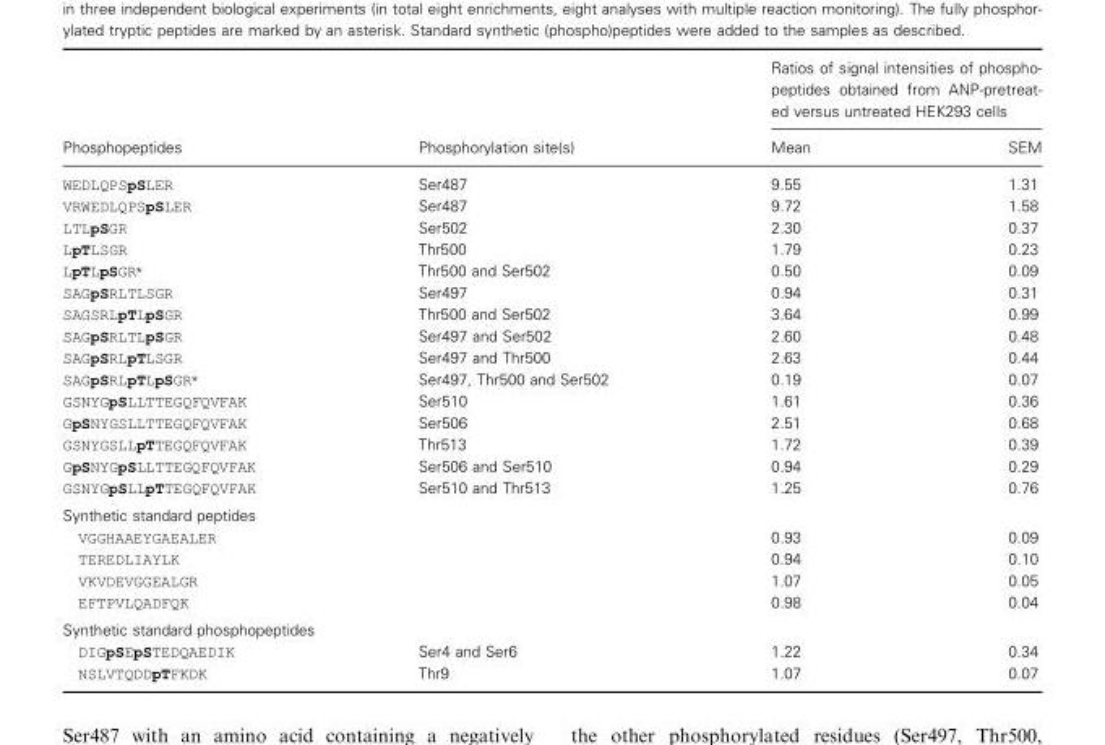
<table><thead><tr><td rowspan="2">Phosphopeptides</td><td rowspan="2">Phosphorylation site(s)</td><td colspan="2">Ratios of signal intensities of phospho- peptides obtained from ANP-pretreat- ed versus untreated HEK293 cells</td></tr><tr><td>Mean</td><td>SEM</td></tr></thead><tbody><tr><td>WEDLQPSpSLER</td><td>Ser487</td><td>9.55</td><td>1.31</td></tr><tr><td>VRWEDLQPSpSLER</td><td>Ser487</td><td>9.72</td><td>1.58</td></tr><tr><td>LTLpSGR</td><td>Ser502</td><td>2.30</td><td>0.37</td></tr><tr><td>LpTLSGR</td><td>Thr500</td><td>1.79</td><td>0.23</td></tr><tr><td>LpTLpSGR*</td><td>Thr500 and Ser502</td><td>0.50</td><td>0.09</td></tr><tr><td>SAGpSRLTLSGR</td><td>Ser497</td><td>0.94</td><td>0.31</td></tr><tr><td>SAGSRLpTLpSGR</td><td>Thr500 and Ser502</td><td>3.64</td><td>0.99</td></tr><tr><td>SAGpSRLTLpSGR</td><td>Ser497 and Ser502</td><td>2.60</td><td>0.48</td></tr><tr><td>SAGpSRLpTLSGR</td><td>Ser497 and Thr500</td><td>2.63</td><td>0.44</td></tr><tr><td>SAGpSRLpTLpSGR*</td><td>Ser497, Thr500 and Ser502</td><td>0.19</td><td>0.07</td></tr><tr><td>GSNYGpSLLTTEGQFQVFAK</td><td>Ser510</td><td>1.61</td><td>0.36</td></tr><tr><td>GpSNYGSLLTTEGQFQVFAK</td><td>Ser506</td><td>2.51</td><td>0.68</td></tr><tr><td>GSNYGSLLpTTEGQFQVFAK</td><td>Thr513</td><td>1.72</td><td>0.39</td></tr><tr><td>GpSNYGpSLLTTEGQFQVFAK</td><td>Ser506 and Ser510</td><td>0.94</td><td>0.29</td></tr><tr><td>GSNYGpSLLpTTEGQFQVFAK</td><td>Ser510 and Thr513</td><td>1.25</td><td>0.76</td></tr><tr><td colspan="4">Synthetic standard peptides</td></tr><tr><td>VGGHAAEYGAEALER</td><td></td><td>0.93</td><td>0.09</td></tr><tr><td>TEREDLIAYLK</td><td></td><td>0.94</td><td>0.10</td></tr><tr><td>VKVDEVGGEALGR</td><td></td><td>1.07</td><td>0.05</td></tr><tr><td>EFTPVLQADFQK</td><td></td><td>0.98</td><td>0.04</td></tr><tr><td colspan="4">Synthetic standard phosphopeptides</td></tr><tr><td>DIGpSEpSTEDQAEDIK</td><td>Ser4 and Ser6</td><td>1.22</td><td>0.34</td></tr><tr><td>NSLVTQDDpTFKDK</td><td>Thr9</td><td>1.07</td><td>0.07</td></tr></tbody></table>